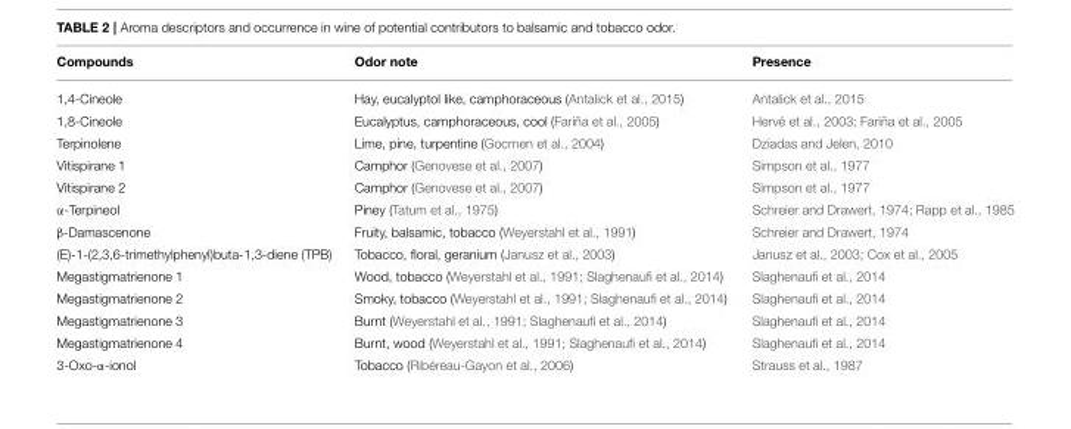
<table><thead><tr><td>Compounds</td><td>Odor note</td><td>Presence</td></tr></thead><tbody><tr><td>1,4-Cineole</td><td>Hay, eucalyptol like, camphoraceous (Antalick et al., 2015)</td><td>Antalick et al., 2015</td></tr><tr><td>1,8-Cineole</td><td>Eucalyptus, camphoraceous, cool (Fariña et al., 2005)</td><td>Hervé et al., 2003; Fariña et al., 2005</td></tr><tr><td>Terpinolene</td><td>Lime, pine, turpentine (Gocmen et al., 2004)</td><td>Dziadas and Jelen, 2010</td></tr><tr><td>Vitispirane 1</td><td>Camphor (Genovese et al., 2007)</td><td>Simpson et al., 1977</td></tr><tr><td>Vitispirane 2</td><td>Camphor (Genovese et al., 2007)</td><td>Simpson et al., 1977</td></tr><tr><td>α-Terpineol</td><td>Piney (Tatum et al., 1975)</td><td>Schreier and Drawert, 1974; Rapp et al., 1985</td></tr><tr><td>β-Damascenone</td><td>Fruity, balsamic, tobacco (Weyerstahl et al., 1991)</td><td>Schreier and Drawert, 1974</td></tr><tr><td>(E)-1-(2,3,6-trimethylphenyl)buta-1,3-diene (TPB)</td><td>Tobacco, floral, geranium (Janusz et al., 2003)</td><td>Janusz et al., 2003; Cox et al., 2005</td></tr><tr><td>Megastigmatrienone 1</td><td>Wood, tobacco (Weyerstahl et al., 1991; Slaghenaufi et al., 2014)</td><td>Slaghenaufi et al., 2014</td></tr><tr><td>Megastigmatrienone 2</td><td>Smoky, tobacco (Weyerstahl et al., 1991; Slaghenaufi et al., 2014)</td><td>Slaghenaufi et al., 2014</td></tr><tr><td>Megastigmatrienone 3</td><td>Burnt (Weyerstahl et al., 1991; Slaghenaufi et al., 2014)</td><td>Slaghenaufi et al., 2014</td></tr><tr><td>Megastigmatrienone 4</td><td>Burnt, wood (Weyerstahl et al., 1991; Slaghenaufi et al., 2014)</td><td>Slaghenaufi et al., 2014</td></tr><tr><td>3-Oxo-α-ionol</td><td>Tobacco (Ribéreau-Gayon et al., 2006)</td><td>Strauss et al., 1987</td></tr></tbody></table>